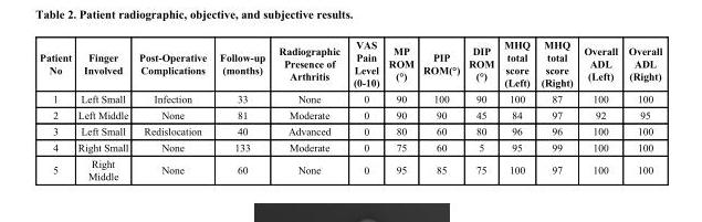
<table><thead><tr><td>Patient No</td><td>Finger Involved</td><td>Post-Operative Complications</td><td>Follow-up (months)</td><td>Radiographic Presence of Arthritis</td><td>VAS Pain Level (0-10)</td><td>MP ROM (°)</td><td>PIP ROM(°)</td><td>DIP ROM (°)</td><td>MHQ total score (Left)</td><td>MHQ total score (Right)</td><td>Overall ADL (Left)</td><td>Overall ADL (Right)</td></tr></thead><tbody><tr><td>1</td><td>Left Small</td><td>Infection</td><td>33</td><td>None</td><td>0</td><td>90</td><td>100</td><td>90</td><td>100</td><td>87</td><td>100</td><td>100</td></tr><tr><td>2</td><td>Left Middle</td><td>None</td><td>81</td><td>Moderate</td><td>0</td><td>90</td><td>90</td><td>45</td><td>84</td><td>97</td><td>92</td><td>95</td></tr><tr><td>3</td><td>Left Small</td><td>Redislocation</td><td>40</td><td>Advanced</td><td>0</td><td>80</td><td>60</td><td>80</td><td>96</td><td>96</td><td>100</td><td>100</td></tr><tr><td>4</td><td>Right Small</td><td>None</td><td>133</td><td>Moderate</td><td>0</td><td>75</td><td>60</td><td>5</td><td>95</td><td>99</td><td>100</td><td>100</td></tr><tr><td>5</td><td>Right Middle</td><td>None</td><td>60</td><td>None</td><td>0</td><td>95</td><td>85</td><td>75</td><td>100</td><td>97</td><td>100</td><td>100</td></tr></tbody></table>